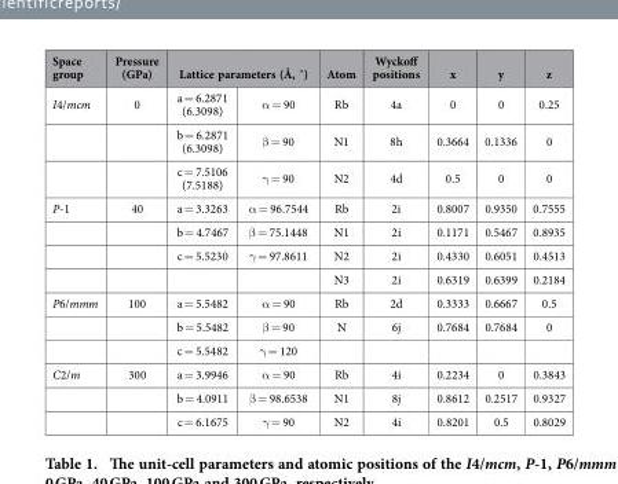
<table><thead><tr><td rowspan="2">Space group I4/mcm</td><td rowspan="2">Pressure (GPa) 0</td><td colspan="2">Lattice parameters (Å, ˚)</td><td rowspan="2">Atom Rb</td><td rowspan="2">Wyckoff positions 4a</td><td rowspan="2">x 0</td><td rowspan="2">y 0</td><td rowspan="2">z 0.25</td></tr><tr><td>a = 6.2871 (6.3098)</td><td>α = 90</td></tr></thead><tbody><tr><td></td><td></td><td>b = 6.2871 (6.3098)</td><td>β = 90</td><td>N1</td><td>8h</td><td>0.3664</td><td>0.1336</td><td>0</td></tr><tr><td></td><td></td><td>c = 7.5106 (7.5188)</td><td>γ = 90</td><td>N2</td><td>4d</td><td>0.5</td><td>0</td><td>0</td></tr><tr><td rowspan="4">P-1</td><td>40</td><td>a = 3.3263</td><td>α = 96.7544</td><td>Rb</td><td>2i</td><td>0.8007</td><td>0.9350</td><td>0.7555</td></tr><tr><td></td><td>b = 4.7467</td><td>β = 75.1448</td><td>N1</td><td>2i</td><td>0.1171</td><td>0.5467</td><td>0.8935</td></tr><tr><td></td><td>c = 5.5230</td><td>γ = 97.8611</td><td>N2</td><td>2i</td><td>0.4330</td><td>0.6051</td><td>0.4513</td></tr><tr><td></td><td></td><td></td><td>N3</td><td>2i</td><td>0.6319</td><td>0.6399</td><td>0.2184</td></tr><tr><td rowspan="3">P6/mmm</td><td>100</td><td>a = 5.5482</td><td>α = 90</td><td>Rb</td><td>2d</td><td>0.3333</td><td>0.6667</td><td>0.5</td></tr><tr><td></td><td>b = 5.5482</td><td>β = 90</td><td>N</td><td>6j</td><td>0.7684</td><td>0.7684</td><td>0</td></tr><tr><td></td><td>c = 5.5482</td><td>γ = 120</td><td></td><td></td><td></td><td></td><td></td></tr><tr><td rowspan="3">C2/m</td><td>300</td><td>a = 3.9946</td><td>α = 90</td><td>Rb</td><td>4i</td><td>0.2234</td><td>0</td><td>0.3843</td></tr><tr><td></td><td>b = 4.0911</td><td>β = 98.6538</td><td>N1</td><td>8j</td><td>0.8612</td><td>0.2517</td><td>0.9327</td></tr><tr><td></td><td>c = 6.1675</td><td>γ = 90</td><td>N2</td><td>4i</td><td>0.8201</td><td>0.5</td><td>0.8029</td></tr></tbody></table>